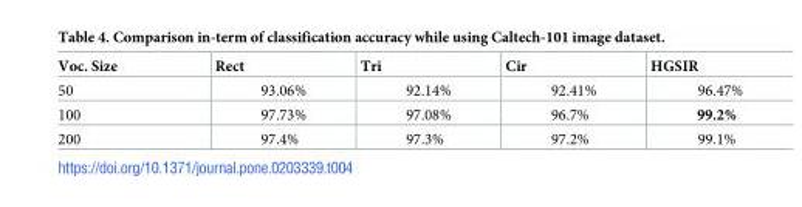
<table><thead><tr><td>Voc. Size</td><td>Rect</td><td>Tri</td><td>Cir</td><td>HGSIR</td></tr></thead><tbody><tr><td>50</td><td>93.06%</td><td>92.14%</td><td>92.41%</td><td>96.47%</td></tr><tr><td>100</td><td>97.73%</td><td>97.08%</td><td>96.7%</td><td>99.2%</td></tr><tr><td>200</td><td>97.4%</td><td>97.3%</td><td>97.2%</td><td>99.1%</td></tr></tbody></table>